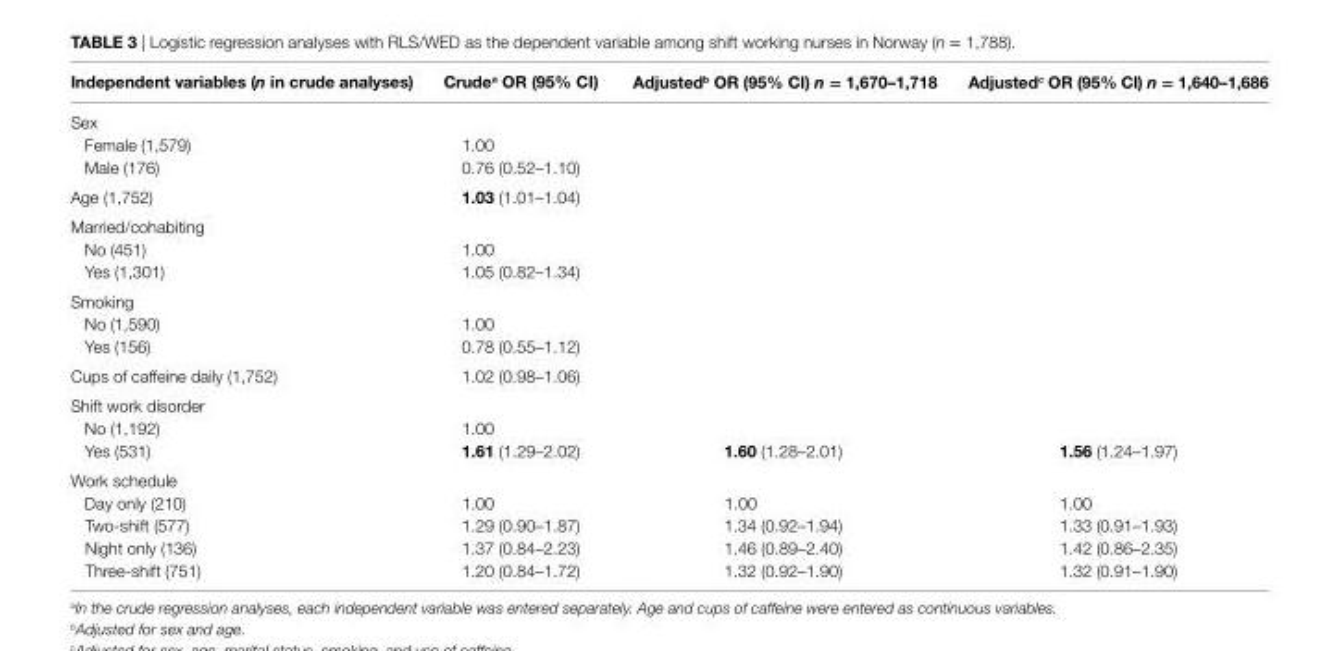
<table><thead><tr><td>independent variables (n in crude analyses)</td><td>crude<sup>a</sup> Or (95% ci)</td><td>adjusted<sup>b</sup> Or (95% ci) n = 1,670–1,718</td><td>adjusted<sup>c</sup> Or (95% ci) n = 1,640–1,686</td></tr></thead><tbody><tr><td colspan="2">Sex</td><td rowspan="3"></td><td rowspan="3"></td></tr><tr><td>Female (1,579)</td><td>1.00</td></tr><tr><td>Male (176)</td><td>0.76 (0.52–1.10)</td></tr><tr><td>Age (1,752)</td><td>1.03 (1.01–1.04)</td><td></td><td></td></tr><tr><td colspan="2">Married/cohabiting</td><td rowspan="3"></td><td rowspan="3"></td></tr><tr><td>No (451)</td><td>1.00</td></tr><tr><td>Yes (1,301)</td><td>1.05 (0.82–1.34)</td></tr><tr><td colspan="2">Smoking</td><td rowspan="3"></td><td rowspan="3"></td></tr><tr><td>No (1,590)</td><td>1.00</td></tr><tr><td>Yes (156)</td><td>0.78 (0.55–1.12)</td></tr><tr><td>Cups of caffeine daily (1,752)</td><td>1.02 (0.98–1.06)</td><td></td><td></td></tr><tr><td colspan="4">Shift work disorder</td></tr><tr><td>No (1,192)</td><td>1.00</td><td></td><td></td></tr><tr><td>Yes (531)</td><td>1.61 (1.29–2.02)</td><td>1.60 (1.28–2.01)</td><td>1.56 (1.24–1.97)</td></tr><tr><td colspan="4">Work schedule</td></tr><tr><td>Day only (210)</td><td>1.00</td><td>1.00</td><td>1.00</td></tr><tr><td>Two-shift (577)</td><td>1.29 (0.90–1.87)</td><td>1.34 (0.92–1.94)</td><td>1.33 (0.91–1.93)</td></tr><tr><td>Night only (136)</td><td>1.37 (0.84–2.23)</td><td>1.46 (0.89–2.40)</td><td>1.42 (0.86–2.35)</td></tr><tr><td>Three-shift (751)</td><td>1.20 (0.84–1.72)</td><td>1.32 (0.92–1.90)</td><td>1.32 (0.91–1.90)</td></tr></tbody></table>